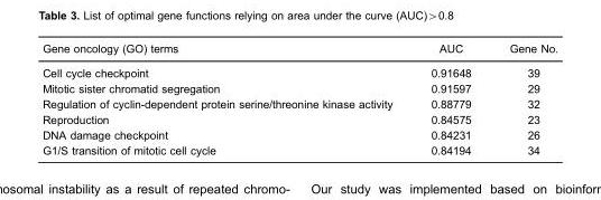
<table><thead><tr><td>Gene oncology (GO) terms</td><td>AUC</td><td>Gene No.</td></tr></thead><tbody><tr><td>Cell cycle checkpoint</td><td>0.91648</td><td>39</td></tr><tr><td>Mitotic sister chromatid segregation</td><td>0.91597</td><td>29</td></tr><tr><td>Regulation of cyclin-dependent protein serine/threonine kinase activity</td><td>0.88779</td><td>32</td></tr><tr><td>Reproduction</td><td>0.84575</td><td>23</td></tr><tr><td>DNA damage checkpoint</td><td>0.84231</td><td>26</td></tr><tr><td>G1/S transition of mitotic cell cycle</td><td>0.84194</td><td>34</td></tr></tbody></table>